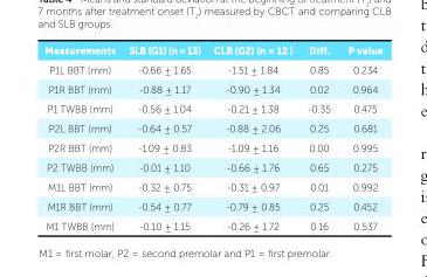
<table><thead><tr><td>Measurements</td><td>SLB (G1) (n = 13)</td><td>CLB (G2) (n = 12 )</td><td>Diff.</td><td>P value</td></tr></thead><tbody><tr><td>P1L BBT (mm)</td><td>-0.66 ± 1.65</td><td>-1.51 ± 1.84</td><td>0.85</td><td>0.234</td></tr><tr><td>P1R BBT (mm)</td><td>-0.88 ± 1.17</td><td>-0.90 ± 1.34</td><td>0.02</td><td>0.964</td></tr><tr><td>P1 TWBB (mm)</td><td>-0.56 ± 1.04</td><td>-0.21 ± 1.38</td><td>-0.35</td><td>0.475</td></tr><tr><td>P2L BBT (mm)</td><td>-0.64 ± 0.57</td><td>-0.88 ± 2.06</td><td>0.25</td><td>0.681</td></tr><tr><td>P2R BBT (mm)</td><td>-1.09 ± 0.83</td><td>-1.09 ± 1.16</td><td>0.00</td><td>0.995</td></tr><tr><td>P2 TWBB (mm)</td><td>-0.01 ± 1.10</td><td>-0.66 ± 1.76</td><td>0.65</td><td>0.275</td></tr><tr><td>M1L BBT (mm)</td><td>-0.32 ± 0.75</td><td>-0.31 ± 0.97</td><td>0.01</td><td>0.992</td></tr><tr><td>M1R BBT (mm)</td><td>-0.54 ± 0.77</td><td>-0.79 ± 0.85</td><td>0.25</td><td>0.452</td></tr><tr><td>M1 TWBB (mm)</td><td>-0.10 ± 1.15</td><td>-0.26 ± 1.72</td><td>0.16</td><td>0.537</td></tr></tbody></table>